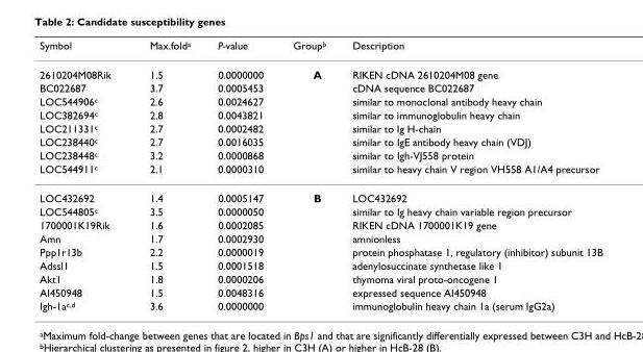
<table><thead><tr><td>Symbol</td><td>Max.fold<sup>a</sup></td><td>P-value</td><td>Group<sup>b</sup></td><td>Description</td></tr></thead><tbody><tr><td>2610204M08Rik</td><td>1.5</td><td>0.0000000</td><td>A</td><td>RIKEN cDNA 2610204M08 gene</td></tr><tr><td>BC022687</td><td>3.7</td><td>0.0005453</td><td></td><td>cDNA sequence BC022687</td></tr><tr><td>LOC544906<sup>c</sup></td><td>2.6</td><td>0.0024627</td><td></td><td>similar to monoclonal antibody heavy chain</td></tr><tr><td>LOC382694<sup>c</sup></td><td>2.8</td><td>0.0043821</td><td></td><td>similar to immunoglobulin heavy chain</td></tr><tr><td>LOC211331<sup>c</sup></td><td>2.7</td><td>0.0002482</td><td></td><td>similar to Ig H-chain</td></tr><tr><td>LOC238440<sup>c</sup></td><td>2.7</td><td>0.0016035</td><td></td><td>similar to IgE antibody heavy chain (VDJ)</td></tr><tr><td>LOC238448<sup>c</sup></td><td>3.2</td><td>0.0000868</td><td></td><td>similar to Igh-VJ558 protein</td></tr><tr><td>LOC544911<sup>c</sup></td><td>2.1</td><td>0.0000310</td><td></td><td>similar to heavy chain V region VH558 A1/A4 precursor</td></tr><tr><td>LOC432692</td><td>1.4</td><td>0.0005147</td><td>B</td><td>LOC432692</td></tr><tr><td>LOC544805<sup>c</sup></td><td>3.5</td><td>0.0000050</td><td></td><td>similar to Ig heavy chain variable region precursor</td></tr><tr><td>1700001K19Rik</td><td>1.6</td><td>0.0002085</td><td></td><td>RIKEN cDNA 1700001K19 gene</td></tr><tr><td>Amn</td><td>1.7</td><td>0.0002930</td><td></td><td>amnionless</td></tr><tr><td>Ppp1r13b</td><td>2.2</td><td>0.0000019</td><td></td><td>protein phosphatase 1, regulatory (inhibitor) subunit 13B</td></tr><tr><td>Adssl1</td><td>1.5</td><td>0.0001518</td><td></td><td>adenylosuccinate synthetase like 1</td></tr><tr><td>Akt1</td><td>1.8</td><td>0.0000206</td><td></td><td>thymoma viral proto-oncogene 1</td></tr><tr><td>AI450948</td><td>1.5</td><td>0.0048316</td><td></td><td>expressed sequence AI450948</td></tr><tr><td>Igh-1a<sup>c,d</sup></td><td>3.6</td><td>0.0000000</td><td></td><td>immunoglobulin heavy chain 1a (serum IgG2a)</td></tr></tbody></table>